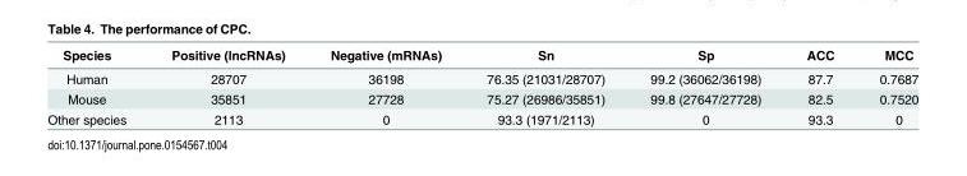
<table><thead><tr><td>Species</td><td>Positive (lncRNAs)</td><td>Negative (mRNAs)</td><td>Sn</td><td>Sp</td><td>ACC</td><td>MCC</td></tr></thead><tbody><tr><td>Human</td><td>28707</td><td>36198</td><td>76.35 (21031/28707)</td><td>99.2 (36062/36198)</td><td>87.7</td><td>0.7687</td></tr><tr><td>Mouse</td><td>35851</td><td>27728</td><td>75.27 (26986/35851)</td><td>99.8 (27647/27728)</td><td>82.5</td><td>0.7520</td></tr><tr><td>Other species</td><td>2113</td><td>0</td><td>93.3 (1971/2113)</td><td>0</td><td>93.3</td><td>0</td></tr></tbody></table>